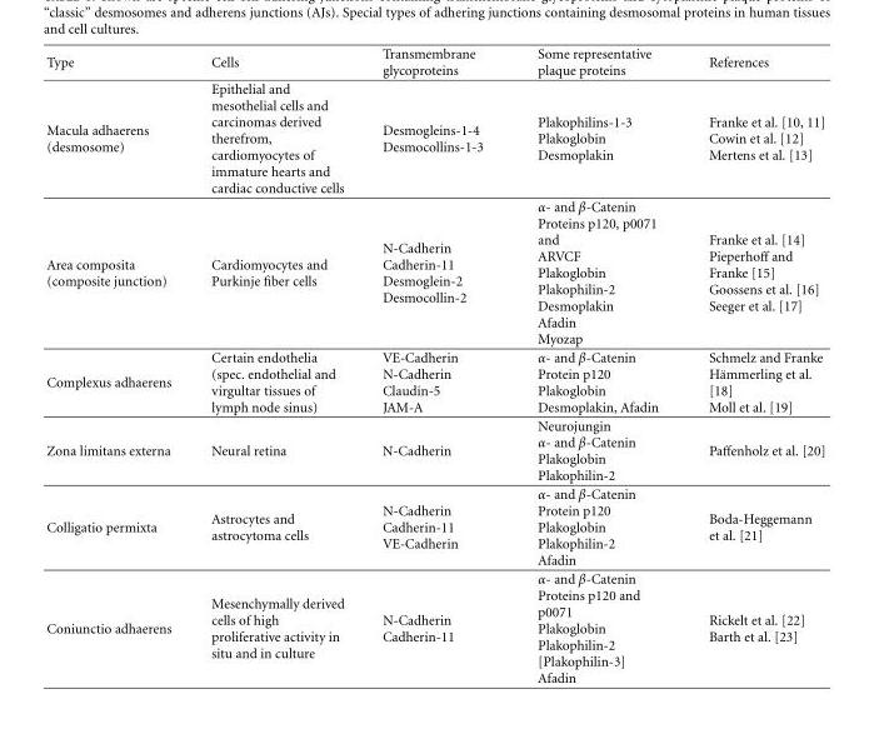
<table><thead><tr><td>Type</td><td>Cells</td><td>Transmembrane glycoproteins</td><td>Some representative plaque proteins</td><td>References</td></tr></thead><tbody><tr><td>Macula adhaerens (desmosome)</td><td>Epithelial and mesothelial cells and carcinomas derived therefrom, cardiomyocytes of immature hearts and cardiac conductive cells</td><td>Desmogleins-1-4 Desmocollins-1-3</td><td>Plakophilins-1-3 Plakoglobin Desmoplakin</td><td>Franke et al. [10, 11] Cowin et al. [12] Mertens et al. [13]</td></tr><tr><td>Area composita (composite junction)</td><td>Cardiomyocytes and Purkinje fiber cells</td><td>N-Cadherin Cadherin-11 Desmoglein-2 Desmocollin-2</td><td>α- and β-Catenin Proteins p120, p0071 and ARVCF Plakoglobin Plakophilin-2 Desmoplakin Afadin Myozap</td><td>Franke et al. [14] Pieperhoff and Franke [15] Goossens et al. [16] Seeger et al. [17]</td></tr><tr><td>Complexus adhaerens</td><td>Certain endothelia (spec. endothelial and virgultar tissues of lymph node sinus)</td><td>VE-Cadherin N-Cadherin Claudin-5 JAM-A</td><td>α- and β-Catenin Protein p120 Plakoglobin Desmoplakin, Afadin</td><td>Schmelz and Franke H¨ammerling et al. [18] Moll et al. [19]</td></tr><tr><td>Zona limitans externa</td><td>Neural retina</td><td>N-Cadherin</td><td>Neurojungin α- and β-Catenin Plakoglobin Plakophilin-2</td><td>Paffenholz et al. [20]</td></tr><tr><td>Colligatio permixta</td><td>Astrocytes and astrocytoma cells</td><td>N-Cadherin Cadherin-11 VE-Cadherin</td><td>α- and β-Catenin Protein p120 Plakoglobin Plakophilin-2 Afadin</td><td>Boda-Heggemann et al. [21]</td></tr><tr><td>Coniunctio adhaerens</td><td>Mesenchymally derived cells of high proliferative activity in situ and in culture</td><td>N-Cadherin Cadherin-11</td><td>α- and β-Catenin Proteins p120 and p0071 Plakoglobin Plakophilin-2 [Plakophilin-3] Afadin</td><td>Rickelt et al. [22] Barth et al. [23]</td></tr></tbody></table>